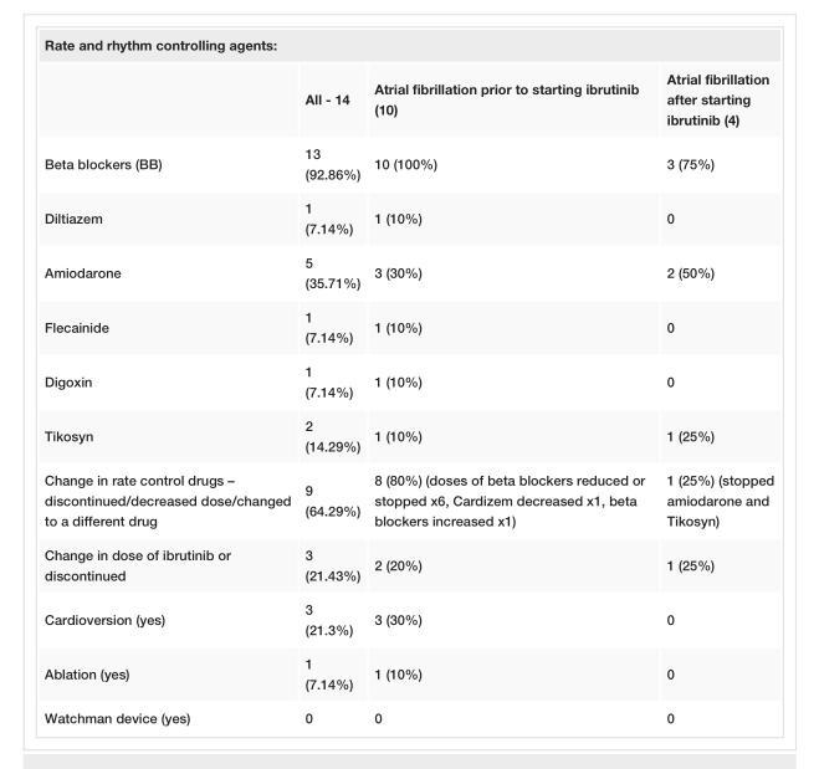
<table><tbody><tr><td colspan="4">Rate and rhythm controlling agents:</td></tr><tr><td></td><td>All - 14</td><td>Atrial fibrillation prior to starting ibrutinib (10)</td><td>Atrial fibrillation after starting ibrutinib (4)</td></tr><tr><td>Beta blockers (BB)</td><td>13 (92.86%)</td><td>10 (100%)</td><td>3 (75%)</td></tr><tr><td>Diltiazem</td><td>1 (7.14%)</td><td>1 (10%)</td><td>0</td></tr><tr><td>Amiodarone</td><td>5 (35.71%)</td><td>3 (30%)</td><td>2 (50%)</td></tr><tr><td>Flecainide</td><td>1 (7.14%)</td><td>1 (10%)</td><td>0</td></tr><tr><td>Digoxin</td><td>1 (7.14%)</td><td>1 (10%)</td><td>0</td></tr><tr><td>Tikosyn</td><td>2 (14.29%)</td><td>1 (10%)</td><td>1 (25%)</td></tr><tr><td>Change in rate control drugs – discontinued/decreased dose/changed to a different drug</td><td>9 (64.29%)</td><td>8 (80%) (doses of beta blockers reduced or stopped x6, Cardizem decreased x1, beta blockers increased x1)</td><td>1 (25%) (stopped amiodarone and Tikosyn)</td></tr><tr><td>Change in dose of ibrutinib or discontinued</td><td>3 (21.43%)</td><td>2 (20%)</td><td>1 (25%)</td></tr><tr><td>Cardioversion (yes)</td><td>3 (21.3%)</td><td>3 (30%)</td><td>0</td></tr><tr><td>Ablation (yes)</td><td>1 (7.14%)</td><td>1 (10%)</td><td>0</td></tr><tr><td>Watchman device (yes)</td><td>0</td><td>0</td><td>0</td></tr></tbody></table>